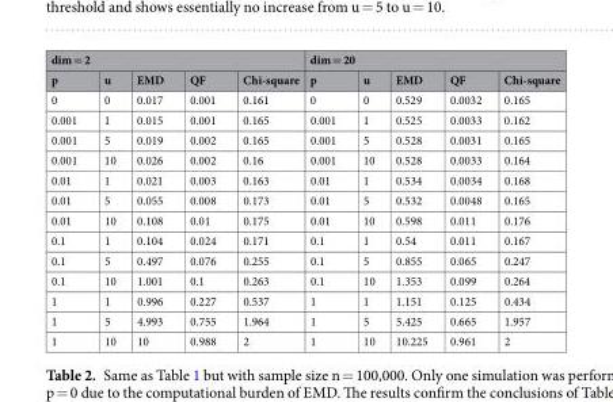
<table><thead><tr><td colspan="5">dim = 2</td><td colspan="5">dim = 20</td></tr><tr><td>p</td><td>u</td><td>EMD</td><td>QF</td><td>Chi-square</td><td>p</td><td>u</td><td>EMD</td><td>QF</td><td>Chi-square</td></tr></thead><tbody><tr><td>0</td><td>0</td><td>0.017</td><td>0.001</td><td>0.161</td><td>0</td><td>0</td><td>0.529</td><td>0.0032</td><td>0.165</td></tr><tr><td>0.001</td><td>1</td><td>0.015</td><td>0.001</td><td>0.165</td><td>0.001</td><td>1</td><td>0.525</td><td>0.0033</td><td>0.162</td></tr><tr><td>0.001</td><td>5</td><td>0.019</td><td>0.002</td><td>0.165</td><td>0.001</td><td>5</td><td>0.528</td><td>0.0031</td><td>0.165</td></tr><tr><td>0.001</td><td>10</td><td>0.026</td><td>0.002</td><td>0.16</td><td>0.001</td><td>10</td><td>0.528</td><td>0.0033</td><td>0.164</td></tr><tr><td>0.01</td><td>1</td><td>0.021</td><td>0.003</td><td>0.163</td><td>0.01</td><td>1</td><td>0.534</td><td>0.0034</td><td>0.168</td></tr><tr><td>0.01</td><td>5</td><td>0.055</td><td>0.008</td><td>0.173</td><td>0.01</td><td>5</td><td>0.532</td><td>0.0048</td><td>0.165</td></tr><tr><td>0.01</td><td>10</td><td>0.108</td><td>0.01</td><td>0.175</td><td>0.01</td><td>10</td><td>0.598</td><td>0.011</td><td>0.176</td></tr><tr><td>0.1</td><td>1</td><td>0.104</td><td>0.024</td><td>0.171</td><td>0.1</td><td>1</td><td>0.54</td><td>0.011</td><td>0.167</td></tr><tr><td>0.1</td><td>5</td><td>0.497</td><td>0.076</td><td>0.255</td><td>0.1</td><td>5</td><td>0.855</td><td>0.065</td><td>0.247</td></tr><tr><td>0.1</td><td>10</td><td>1.001</td><td>0.1</td><td>0.263</td><td>0.1</td><td>10</td><td>1.353</td><td>0.099</td><td>0.264</td></tr><tr><td>1</td><td>1</td><td>0.996</td><td>0.227</td><td>0.537</td><td>1</td><td>1</td><td>1.151</td><td>0.125</td><td>0.434</td></tr><tr><td>1</td><td>5</td><td>4.993</td><td>0.755</td><td>1.964</td><td>1</td><td>5</td><td>5.425</td><td>0.665</td><td>1.957</td></tr><tr><td>1</td><td>10</td><td>10</td><td>0.988</td><td>2</td><td>1</td><td>10</td><td>10.225</td><td>0.961</td><td>2</td></tr></tbody></table>